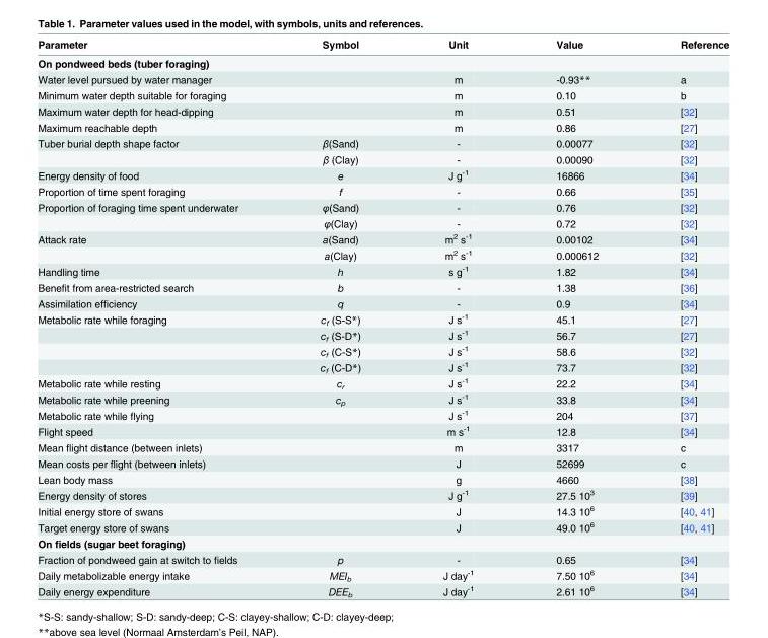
<table><thead><tr><td>Parameter</td><td>Symbol</td><td>Unit</td><td>Value</td><td>Reference</td></tr></thead><tbody><tr><td colspan="5">On pondweed beds (tuber foraging)</td></tr><tr><td>Water level pursued by water manager</td><td></td><td>m</td><td>-0.93**</td><td>a</td></tr><tr><td>Minimum water depth suitable for foraging</td><td></td><td>m</td><td>0.10</td><td>b</td></tr><tr><td>Maximum water depth for head-dipping</td><td></td><td>m</td><td>0.51</td><td>[32]</td></tr><tr><td>Maximum reachable depth</td><td></td><td>m</td><td>0.86</td><td>[27]</td></tr><tr><td rowspan="2">Tuber burial depth shape factor</td><td>β(Sand)</td><td>-</td><td>0.00077</td><td>[32]</td></tr><tr><td>β (Clay)</td><td>-</td><td>0.00090</td><td>[32]</td></tr><tr><td>Energy density of food</td><td>e</td><td>J g<sup>-1</sup></td><td>16866</td><td>[34]</td></tr><tr><td>Proportion of time spent foraging</td><td>f</td><td>-</td><td>0.66</td><td>[35]</td></tr><tr><td rowspan="2">Proportion of foraging time spent underwater</td><td>φ(Sand)</td><td>-</td><td>0.76</td><td>[32]</td></tr><tr><td>φ(Clay)</td><td>-</td><td>0.72</td><td>[32]</td></tr><tr><td rowspan="2">Attack rate</td><td>a(Sand)</td><td>m<sup>2</sup> s<sup>-1</sup></td><td>0.00102</td><td>[34]</td></tr><tr><td>a(Clay)</td><td>m<sup>2</sup> s<sup>-1</sup></td><td>0.000612</td><td>[32]</td></tr><tr><td>Handling time</td><td>h</td><td>s g<sup>-1</sup></td><td>1.82</td><td>[34]</td></tr><tr><td>Benefit from area-restricted search</td><td>b</td><td>-</td><td>1.38</td><td>[36]</td></tr><tr><td>Assimilation efficiency</td><td>q</td><td>-</td><td>0.9</td><td>[34]</td></tr><tr><td rowspan="4">Metabolic rate while foraging</td><td>c<sub>f</sub> (S-S*)</td><td>J s<sup>-1</sup></td><td>45.1</td><td>[27]</td></tr><tr><td>c<sub>f</sub> (S-D*)</td><td>J s<sup>-1</sup></td><td>56.7</td><td>[27]</td></tr><tr><td>c<sub>f</sub> (C-S*)</td><td>J s<sup>-1</sup></td><td>58.6</td><td>[32]</td></tr><tr><td>c<sub>f</sub> (C-D*)</td><td>J s<sup>-1</sup></td><td>73.7</td><td>[32]</td></tr><tr><td>Metabolic rate while resting</td><td>c<sub>r</sub></td><td>J s<sup>-1</sup></td><td>22.2</td><td>[34]</td></tr><tr><td>Metabolic rate while preening</td><td>c<sub>p</sub></td><td>J s<sup>-1</sup></td><td>33.8</td><td>[34]</td></tr><tr><td>Metabolic rate while flying</td><td></td><td>J s<sup>-1</sup></td><td>204</td><td>[37]</td></tr><tr><td>Flight speed</td><td></td><td>m s<sup>-1</sup></td><td>12.8</td><td>[34]</td></tr><tr><td>Mean flight distance (between inlets)</td><td></td><td>m</td><td>3317</td><td>c</td></tr><tr><td>Mean costs per flight (between inlets)</td><td></td><td>J</td><td>52699</td><td>c</td></tr><tr><td>Lean body mass</td><td></td><td>g</td><td>4660</td><td>[38]</td></tr><tr><td>Energy density of stores</td><td></td><td>J g<sup>-1</sup></td><td>27.5 10<sup>3</sup></td><td>[39]</td></tr><tr><td>Initial energy store of swans</td><td></td><td>J</td><td>14.3 10<sup>6</sup></td><td>[40, 41]</td></tr><tr><td>Target energy store of swans</td><td></td><td>J</td><td>49.0 10<sup>6</sup></td><td>[40, 41]</td></tr><tr><td colspan="5">On fields (sugar beet foraging)</td></tr><tr><td>Fraction of pondweed gain at switch to fields</td><td>p</td><td>-</td><td>0.65</td><td>[34]</td></tr><tr><td>Daily metabolizable energy intake</td><td>MEI<sub>b</sub></td><td>J day<sup>-1</sup></td><td>7.50 10<sup>6</sup></td><td>[34]</td></tr><tr><td>Daily energy expenditure</td><td>DEE<sub>b</sub></td><td>J day<sup>-1</sup></td><td>2.61 10<sup>6</sup></td><td>[34]</td></tr></tbody></table>